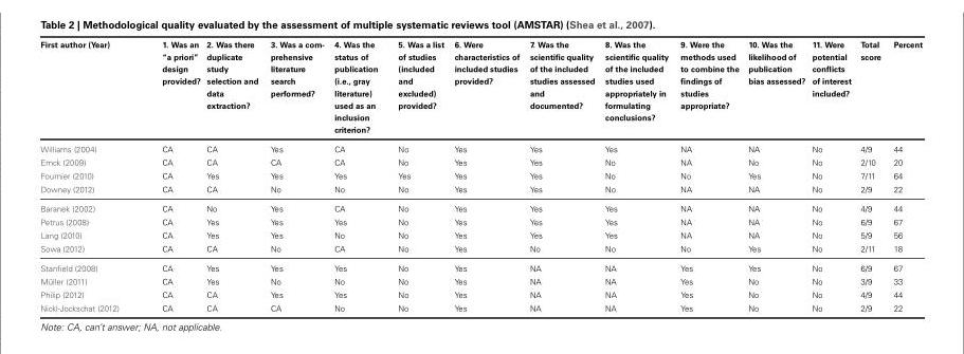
<table><thead><tr><td>First author (Year)</td><td>1. Was an “a priori” design provided?</td><td>2. Was there duplicate study selection and data extraction?</td><td>3. Was a com- prehensive literature search performed?</td><td>4. Was the status of publication (i.e., gray literature) used as an inclusion criterion?</td><td>5. Was a list of studies (included and excluded) provided?</td><td>6. Were characteristics of included studies provided?</td><td>7. Was the scientific quality of the included studies assessed and documented?</td><td>8. Was the scientific quality of the included studies used appropriately in formulating conclusions?</td><td>9. Were the methods used to combine the findings of studies appropriate?</td><td>10. Was the likelihood of publication bias assessed?</td><td>11. Were potential conflicts of interest included?</td><td>Total score</td><td>Percent</td></tr></thead><tbody><tr><td>Williams (2004)</td><td>CA</td><td>CA</td><td>Yes</td><td>CA</td><td>No</td><td>Yes</td><td>Yes</td><td>Yes</td><td>NA</td><td>NA</td><td>No</td><td>4/9</td><td>44</td></tr><tr><td>Emck (2009)</td><td>CA</td><td>CA</td><td>CA</td><td>CA</td><td>No</td><td>Yes</td><td>Yes</td><td>No</td><td>NA</td><td>No</td><td>No</td><td>2/10</td><td>20</td></tr><tr><td>Fournier (2010)</td><td>CA</td><td>Yes</td><td>Yes</td><td>Yes</td><td>Yes</td><td>Yes</td><td>Yes</td><td>No</td><td>No</td><td>Yes</td><td>No</td><td>7/11</td><td>64</td></tr><tr><td>Downey (2012)</td><td>CA</td><td>CA</td><td>No</td><td>No</td><td>No</td><td>Yes</td><td>Yes</td><td>No</td><td>NA</td><td>NA</td><td>No</td><td>2/9</td><td>22</td></tr><tr><td>Baranek (2002)</td><td>CA</td><td>No</td><td>Yes</td><td>CA</td><td>No</td><td>Yes</td><td>Yes</td><td>Yes</td><td>NA</td><td>NA</td><td>No</td><td>4/9</td><td>44</td></tr><tr><td>Petrus (2008)</td><td>CA</td><td>Yes</td><td>Yes</td><td>Yes</td><td>No</td><td>Yes</td><td>Yes</td><td>Yes</td><td>NA</td><td>NA</td><td>No</td><td>6/9</td><td>67</td></tr><tr><td>Lang (2010)</td><td>CA</td><td>Yes</td><td>Yes</td><td>No</td><td>No</td><td>Yes</td><td>Yes</td><td>Yes</td><td>NA</td><td>NA</td><td>No</td><td>5/9</td><td>56</td></tr><tr><td>Sowa (2012)</td><td>CA</td><td>CA</td><td>No</td><td>CA</td><td>No</td><td>Yes</td><td>No</td><td>No</td><td>No</td><td>Yes</td><td>No</td><td>2/11</td><td>18</td></tr><tr><td>Stanfield (2008)</td><td>CA</td><td>Yes</td><td>Yes</td><td>Yes</td><td>No</td><td>Yes</td><td>NA</td><td>NA</td><td>Yes</td><td>Yes</td><td>No</td><td>6/9</td><td>67</td></tr><tr><td>Müller (2011)</td><td>CA</td><td>Yes</td><td>No</td><td>No</td><td>No</td><td>Yes</td><td>NA</td><td>NA</td><td>Yes</td><td>No</td><td>No</td><td>3/9</td><td>33</td></tr><tr><td>Philip (2012)</td><td>CA</td><td>CA</td><td>Yes</td><td>Yes</td><td>No</td><td>Yes</td><td>NA</td><td>NA</td><td>Yes</td><td>No</td><td>No</td><td>4/9</td><td>44</td></tr><tr><td>Nickl-Jockschat (2012)</td><td>CA</td><td>CA</td><td>CA</td><td>No</td><td>No</td><td>Yes</td><td>NA</td><td>NA</td><td>Yes</td><td>No</td><td>No</td><td>2/9</td><td>22</td></tr></tbody></table>